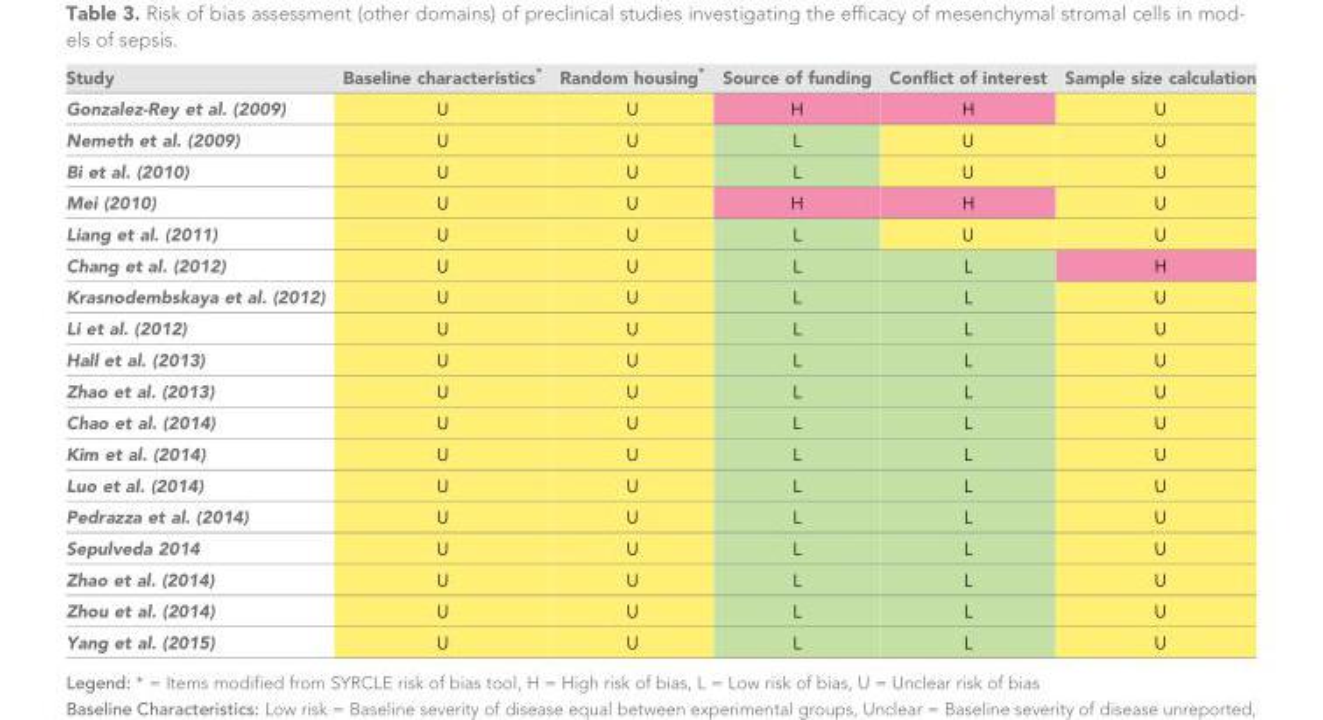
<table><thead><tr><td>Study</td><td>Baseline characteristics*</td><td>Random housing*</td><td>Source of funding</td><td>Conflict of interest</td><td>Sample size calculation</td></tr></thead><tbody><tr><td>Gonzalez-Rey et al. (2009)</td><td>U</td><td>U</td><td>H</td><td>H</td><td>U</td></tr><tr><td>Nemeth et al. (2009)</td><td>U</td><td>U</td><td>L</td><td>U</td><td>U</td></tr><tr><td>Bi et al. (2010)</td><td>U</td><td>U</td><td>L</td><td>U</td><td>U</td></tr><tr><td>Mei (2010)</td><td>U</td><td>U</td><td>H</td><td>H</td><td>U</td></tr><tr><td>Liang et al. (2011)</td><td>U</td><td>U</td><td>L</td><td>U</td><td>U</td></tr><tr><td>Chang et al. (2012)</td><td>U</td><td>U</td><td>L</td><td>L</td><td>H</td></tr><tr><td>Krasnodembskaya et al. (2012)</td><td>U</td><td>U</td><td>L</td><td>L</td><td>U</td></tr><tr><td>Li et al. (2012)</td><td>U</td><td>U</td><td>L</td><td>L</td><td>U</td></tr><tr><td>Hall et al. (2013)</td><td>U</td><td>U</td><td>L</td><td>L</td><td>U</td></tr><tr><td>Zhao et al. (2013)</td><td>U</td><td>U</td><td>L</td><td>L</td><td>U</td></tr><tr><td>Chao et al. (2014)</td><td>U</td><td>U</td><td>L</td><td>L</td><td>U</td></tr><tr><td>Kim et al. (2014)</td><td>U</td><td>U</td><td>L</td><td>L</td><td>U</td></tr><tr><td>Luo et al. (2014)</td><td>U</td><td>U</td><td>L</td><td>L</td><td>U</td></tr><tr><td>Pedrazza et al. (2014)</td><td>U</td><td>U</td><td>L</td><td>L</td><td>U</td></tr><tr><td>Sepulveda 2014</td><td>U</td><td>U</td><td>L</td><td>L</td><td>U</td></tr><tr><td>Zhao et al. (2014)</td><td>U</td><td>U</td><td>L</td><td>L</td><td>U</td></tr><tr><td>Zhou et al. (2014)</td><td>U</td><td>U</td><td>L</td><td>L</td><td>U</td></tr><tr><td>Yang et al. (2015)</td><td>U</td><td>U</td><td>L</td><td>L</td><td>U</td></tr></tbody></table>